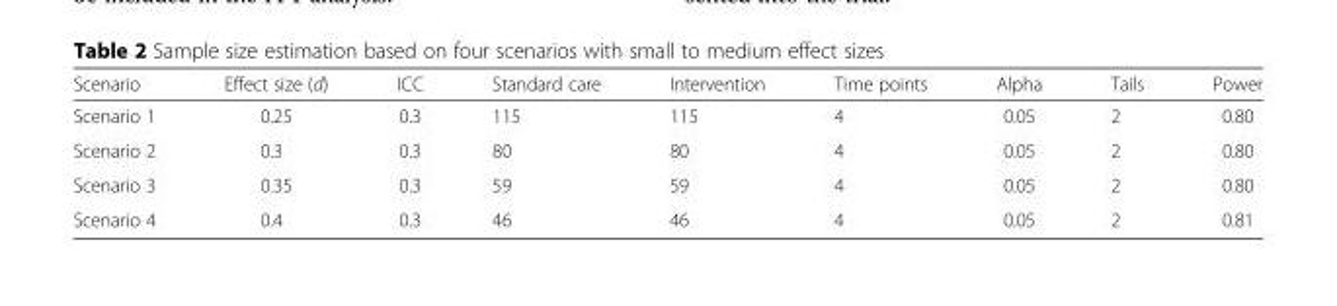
<table><thead><tr><td>Scenario</td><td>Effect size (d)</td><td>ICC</td><td>Standard care</td><td>Intervention</td><td>Time points</td><td>Alpha</td><td>Tails</td><td>Power</td></tr></thead><tbody><tr><td>Scenario 1</td><td>0.25</td><td>0.3</td><td>115</td><td>115</td><td>4</td><td>0.05</td><td>2</td><td>0.80</td></tr><tr><td>Scenario 2</td><td>0.3</td><td>0.3</td><td>80</td><td>80</td><td>4</td><td>0.05</td><td>2</td><td>0.80</td></tr><tr><td>Scenario 3</td><td>0.35</td><td>0.3</td><td>59</td><td>59</td><td>4</td><td>0.05</td><td>2</td><td>0.80</td></tr><tr><td>Scenario 4</td><td>0.4</td><td>0.3</td><td>46</td><td>46</td><td>4</td><td>0.05</td><td>2</td><td>0.81</td></tr></tbody></table>